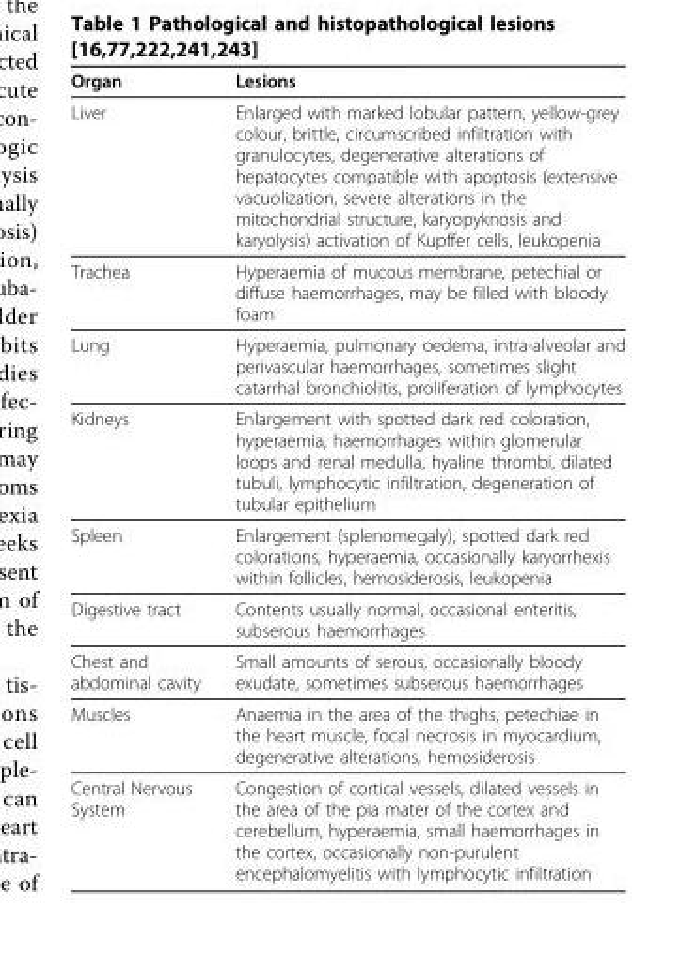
<table><thead><tr><td>Organ</td><td>Lesions</td></tr></thead><tbody><tr><td>Liver</td><td>Enlarged with marked lobular pattern, yellow-grey colour, brittle, circumscribed infiltration with granulocytes, degenerative alterations of hepatocytes compatible with apoptosis (extensive vacuolization, severe alterations in the mitochondrial structure, karyopyknosis and karyolysis) activation of Kupffer cells, leukopenia</td></tr><tr><td>Trachea</td><td>Hyperaemia of mucous membrane, petechial or diffuse haemorrhages, may be filled with bloody foam</td></tr><tr><td>Lung</td><td>Hyperaemia, pulmonary oedema, intra-alveolar and perivascular haemorrhages, sometimes slight catarrhal bronchiolitis, proliferation of lymphocytes</td></tr><tr><td>Kidneys</td><td>Enlargement with spotted dark red coloration, hyperaemia, haemorrhages within glomerular loops and renal medulla, hyaline thrombi, dilated tubuli, lymphocytic infiltration, degeneration of tubular epithelium</td></tr><tr><td>Spleen</td><td>Enlargement (splenomegaly), spotted dark red colorations, hyperaemia, occasionally karyorrhexis within follicles, hemosiderosis, leukopenia</td></tr><tr><td>Digestive tract</td><td>Contents usually normal, occasional enteritis, subserous haemorrhages</td></tr><tr><td>Chest and abdominal cavity</td><td>Small amounts of serous, occasionally bloody exudate, sometimes subserous haemorrhages</td></tr><tr><td>Muscles</td><td>Anaemia in the area of the thighs, petechiae in the heart muscle, focal necrosis in myocardium, degenerative alterations, hemosiderosis</td></tr><tr><td>Central Nervous System</td><td>Congestion of cortical vessels, dilated vessels in the area of the pia mater of the cortex and cerebellum, hyperaemia, small haemorrhages in the cortex, occasionally non-purulent encephalomyelitis with lymphocytic infiltration</td></tr></tbody></table>